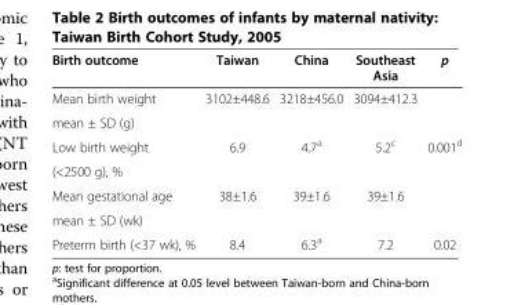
<table><thead><tr><td>Birth outcome</td><td>Taiwan</td><td>China</td><td>Southeast Asia</td><td>p</td></tr></thead><tbody><tr><td>Mean birth weight</td><td rowspan="2">3102±448.6</td><td rowspan="2">3218±456.0</td><td rowspan="2">3094±412.3</td><td rowspan="2"></td></tr><tr><td>mean ± SD (g)</td></tr><tr><td>Low birth weight</td><td rowspan="2">6.9</td><td rowspan="2">4.7<sup>a</sup></td><td rowspan="2">5.2<sup>c</sup></td><td rowspan="2">0.001<sup>d</sup></td></tr><tr><td>(&lt;2500 g), %</td></tr><tr><td>Mean gestational age</td><td rowspan="2">38±1.6</td><td rowspan="2">39±1.6</td><td rowspan="2">39±1.6</td><td rowspan="2"></td></tr><tr><td>mean ± SD (wk)</td></tr><tr><td>Preterm birth (&lt;37 wk), %</td><td>8.4</td><td>6.3<sup>a</sup></td><td>7.2</td><td>0.02</td></tr></tbody></table>